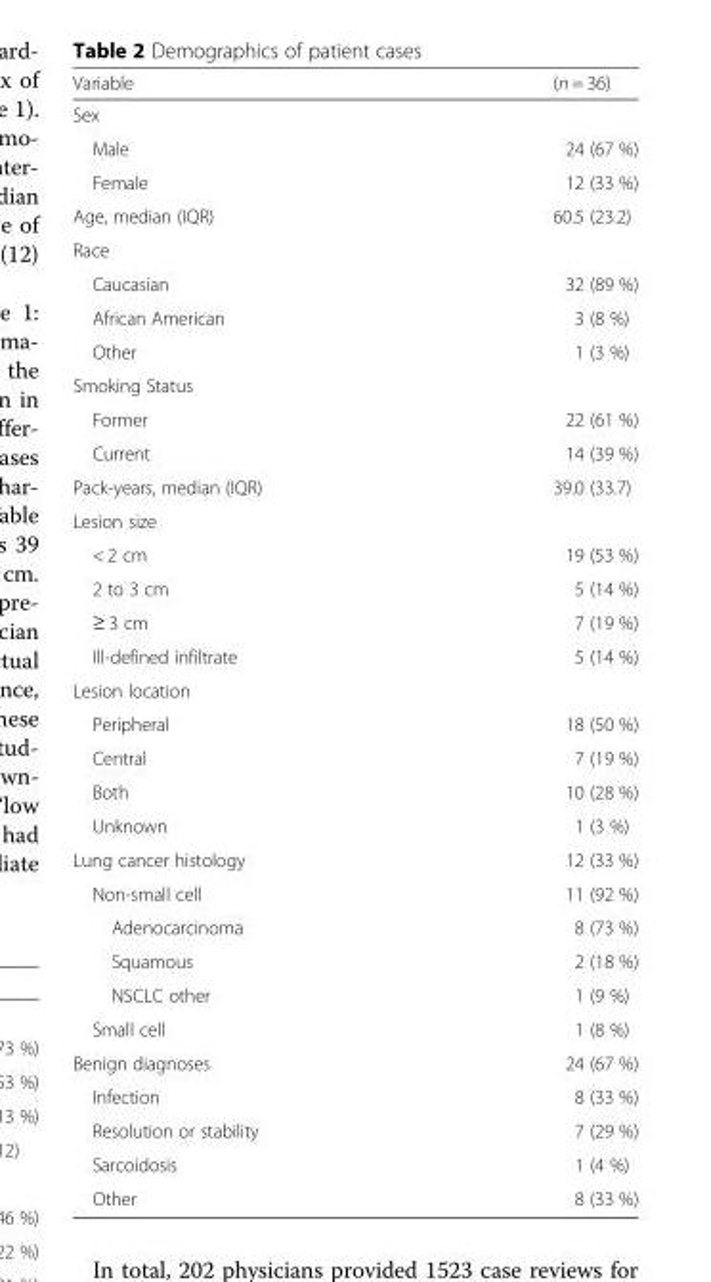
<table><thead><tr><td>Variable</td><td>(n = 36)</td></tr></thead><tbody><tr><td colspan="2">Sex</td></tr><tr><td>Male</td><td>24 (67 %)</td></tr><tr><td>Female</td><td>12 (33 %)</td></tr><tr><td>Age, median (IQR)</td><td>60.5 (23.2)</td></tr><tr><td colspan="2">Race</td></tr><tr><td>Caucasian</td><td>32 (89 %)</td></tr><tr><td>African American</td><td>3 (8 %)</td></tr><tr><td>Other</td><td>1 (3 %)</td></tr><tr><td colspan="2">Smoking Status</td></tr><tr><td>Former</td><td>22 (61 %)</td></tr><tr><td>Current</td><td>14 (39 %)</td></tr><tr><td>Pack-years, median (IQR)</td><td>39.0 (33.7)</td></tr><tr><td colspan="2">Lesion size</td></tr><tr><td>&lt; 2 cm</td><td>19 (53 %)</td></tr><tr><td>2 to 3 cm</td><td>5 (14 %)</td></tr><tr><td>≥ 3 cm</td><td>7 (19 %)</td></tr><tr><td>Ill-defined infiltrate</td><td>5 (14 %)</td></tr><tr><td colspan="2">Lesion location</td></tr><tr><td>Peripheral</td><td>18 (50 %)</td></tr><tr><td>Central</td><td>7 (19 %)</td></tr><tr><td>Both</td><td>10 (28 %)</td></tr><tr><td>Unknown</td><td>1 (3 %)</td></tr><tr><td>Lung cancer histology</td><td>12 (33 %)</td></tr><tr><td>Non-small cell</td><td>11 (92 %)</td></tr><tr><td>Adenocarcinoma</td><td>8 (73 %)</td></tr><tr><td>Squamous</td><td>2 (18 %)</td></tr><tr><td>NSCLC other</td><td>1 (9 %)</td></tr><tr><td>Small cell</td><td>1 (8 %)</td></tr><tr><td>Benign diagnoses</td><td>24 (67 %)</td></tr><tr><td>Infection</td><td>8 (33 %)</td></tr><tr><td>Resolution or stability</td><td>7 (29 %)</td></tr><tr><td>Sarcoidosis</td><td>1 (4 %)</td></tr><tr><td>Other</td><td>8 (33 %)</td></tr></tbody></table>